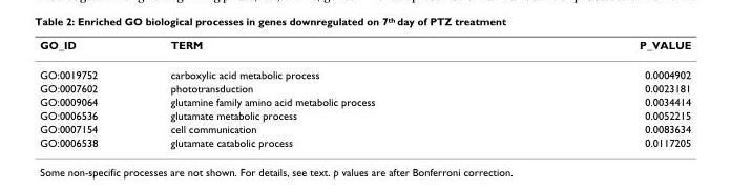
<table><thead><tr><td>GO_ID</td><td>TERM</td><td>P_VALUE</td></tr></thead><tbody><tr><td>GO:0019752</td><td>carboxylic acid metabolic process</td><td>0.0004902</td></tr><tr><td>GO:0007602</td><td>phototransduction</td><td>0.0023181</td></tr><tr><td>GO:0009064</td><td>glutamine family amino acid metabolic process</td><td>0.0034414</td></tr><tr><td>GO:0006536</td><td>glutamate metabolic process</td><td>0.0052215</td></tr><tr><td>GO:0007154</td><td>cell communication</td><td>0.0083634</td></tr><tr><td>GO:0006538</td><td>glutamate catabolic process</td><td>0.0117205</td></tr></tbody></table>